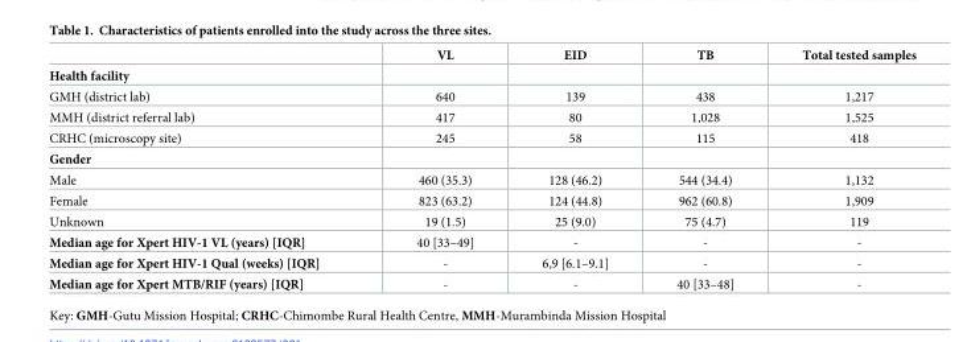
<table><thead><tr><td></td><td>VL</td><td>EID</td><td>TB</td><td>Total tested samples</td></tr></thead><tbody><tr><td colspan="5">Health facility</td></tr><tr><td>GMH (district lab)</td><td>640</td><td>139</td><td>438</td><td>1,217</td></tr><tr><td>MMH (district referral lab)</td><td>417</td><td>80</td><td>1,028</td><td>1,525</td></tr><tr><td>CRHC (microscopy site)</td><td>245</td><td>58</td><td>115</td><td>418</td></tr><tr><td colspan="5">Gender</td></tr><tr><td>Male</td><td>460 (35.3)</td><td>128 (46.2)</td><td>544 (34.4)</td><td>1,132</td></tr><tr><td>Female</td><td>823 (63.2)</td><td>124 (44.8)</td><td>962 (60.8)</td><td>1,909</td></tr><tr><td>Unknown</td><td>19 (1.5)</td><td>25 (9.0)</td><td>75 (4.7)</td><td>119</td></tr><tr><td>Median age for Xpert HIV-1 VL (years) [IQR]</td><td>40 [33–49]</td><td>-</td><td>-</td><td>-</td></tr><tr><td>Median age for Xpert HIV-1 Qual (weeks) [IQR]</td><td>-</td><td>6,9 [6.1–9.1]</td><td>-</td><td>-</td></tr><tr><td>Median age for Xpert MTB/RIF (years) [IQR]</td><td>-</td><td>-</td><td>40 [33–48]</td><td>-</td></tr></tbody></table>